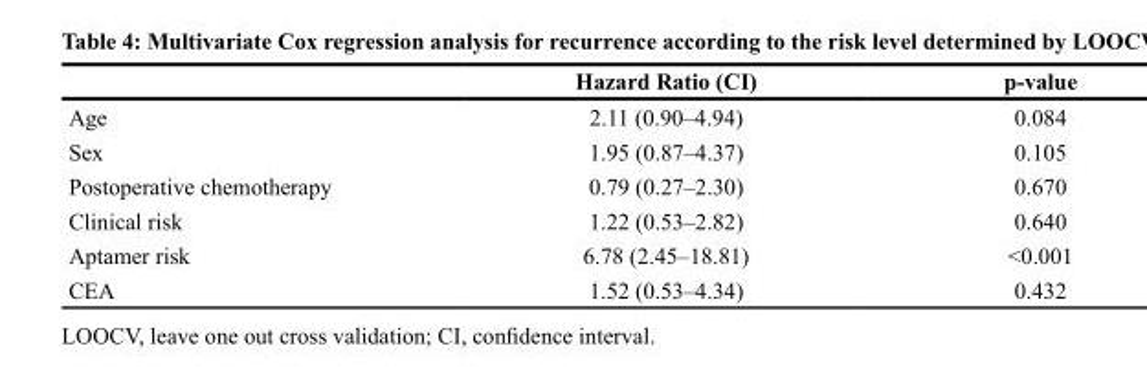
<table><thead><tr><td></td><td>Hazard Ratio (CI)</td><td>p-value</td></tr></thead><tbody><tr><td>Age</td><td>2.11 (0.90–4.94)</td><td>0.084</td></tr><tr><td>Sex</td><td>1.95 (0.87–4.37)</td><td>0.105</td></tr><tr><td>Postoperative chemotherapy</td><td>0.79 (0.27–2.30)</td><td>0.670</td></tr><tr><td>Clinical risk</td><td>1.22 (0.53–2.82)</td><td>0.640</td></tr><tr><td>Aptamer risk</td><td>6.78 (2.45–18.81)</td><td>&lt;0.001</td></tr><tr><td>CEA</td><td>1.52 (0.53–4.34)</td><td>0.432</td></tr></tbody></table>